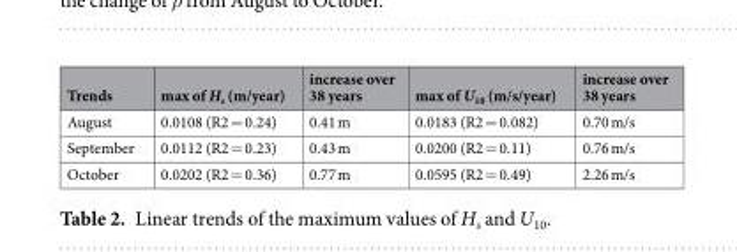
<table><thead><tr><td>Trends</td><td>max of H<sub>s</sub> (m/year)</td><td>increase over 38 years</td><td>max of U<sub>10</sub> (m/s/year)</td><td>increase over 38 years</td></tr></thead><tbody><tr><td>August</td><td>0.0108 (R2 = 0.24)</td><td>0.41 m</td><td>0.0183 (R2 = 0.082)</td><td>0.70 m/s</td></tr><tr><td>September</td><td>0.0112 (R2 = 0.23)</td><td>0.43 m</td><td>0.0200 (R2 = 0.11)</td><td>0.76 m/s</td></tr><tr><td>October</td><td>0.0202 (R2 = 0.36)</td><td>0.77 m</td><td>0.0595 (R2 = 0.49)</td><td>2.26 m/s</td></tr></tbody></table>